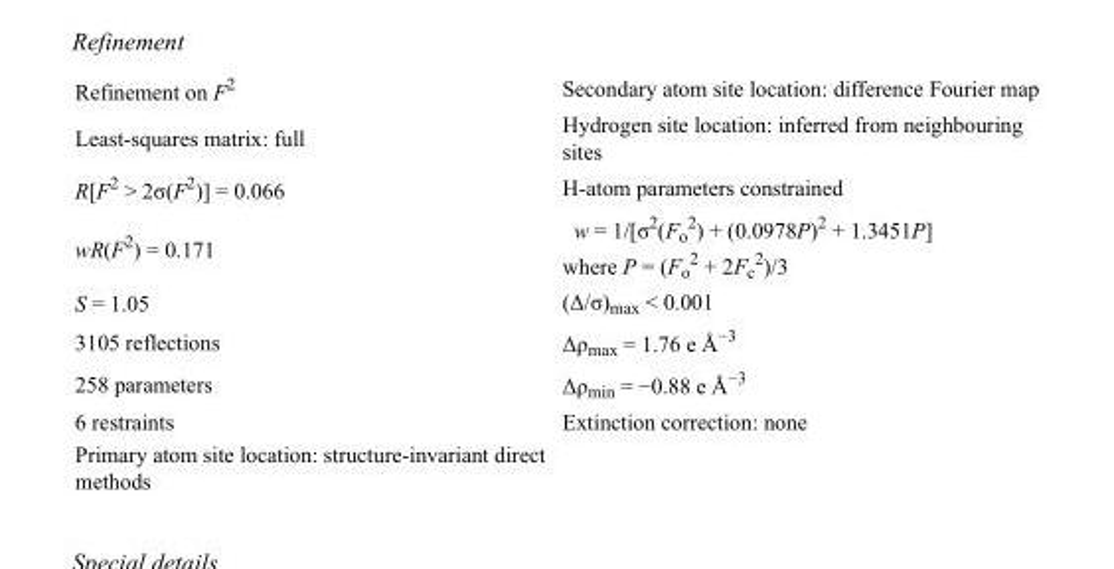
<table><tbody><tr><td>Refinement on F<sup>2</sup></td><td>Secondary atom site location: difference Fourier map</td></tr><tr><td>Least-squares matrix: full</td><td>Hydrogen site location: inferred from neighbouring sites</td></tr><tr><td>R[F<sup>2</sup> &gt; 2σ(F<sup>2</sup>)] = 0.066</td><td>H-atom parameters constrained</td></tr><tr><td>wR(F<sup>2</sup>) = 0.171</td><td>w = 1/[σ<sup>2</sup>(F<sub>o</sub> <sup>2</sup>) + (0.0978P)<sup>2</sup> + 1.3451P] where P = (F<sub>o</sub> <sup>2</sup> + 2F<sub>c</sub> <sup>2</sup>)/3</td></tr><tr><td>S = 1.05</td><td>(Δ/σ)<sub>max</sub> &lt; 0.001</td></tr><tr><td>3105 reflections</td><td>Δρ<sub>max</sub> = 1.76 e Å<sup>−3</sup></td></tr><tr><td>258 parameters</td><td>Δρ<sub>min</sub> = −0.88 e Å<sup>−3</sup></td></tr><tr><td>6 restraints</td><td>Extinction correction: none</td></tr><tr><td>Primary atom site location: structure-invariant direct methods</td><td></td></tr></tbody></table>